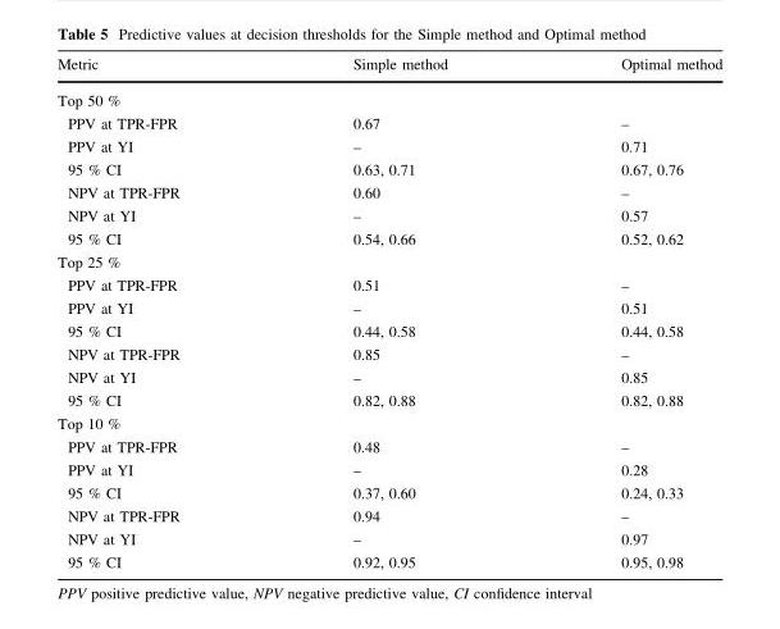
<table><thead><tr><td>Metric</td><td>Simple method</td><td>Optimal method</td></tr></thead><tbody><tr><td colspan="3">Top 50 %</td></tr><tr><td>PPV at TPR-FPR</td><td>0.67</td><td>–</td></tr><tr><td>PPV at YI</td><td>–</td><td>0.71</td></tr><tr><td>95 % CI</td><td>0.63, 0.71</td><td>0.67, 0.76</td></tr><tr><td>NPV at TPR-FPR</td><td>0.60</td><td>–</td></tr><tr><td>NPV at YI</td><td>–</td><td>0.57</td></tr><tr><td>95 % CI</td><td>0.54, 0.66</td><td>0.52, 0.62</td></tr><tr><td colspan="3">Top 25 %</td></tr><tr><td>PPV at TPR-FPR</td><td>0.51</td><td>–</td></tr><tr><td>PPV at YI</td><td>–</td><td>0.51</td></tr><tr><td>95 % CI</td><td>0.44, 0.58</td><td>0.44, 0.58</td></tr><tr><td>NPV at TPR-FPR</td><td>0.85</td><td>–</td></tr><tr><td>NPV at YI</td><td>–</td><td>0.85</td></tr><tr><td>95 % CI</td><td>0.82, 0.88</td><td>0.82, 0.88</td></tr><tr><td colspan="3">Top 10 %</td></tr><tr><td>PPV at TPR-FPR</td><td>0.48</td><td>–</td></tr><tr><td>PPV at YI</td><td>–</td><td>0.28</td></tr><tr><td>95 % CI</td><td>0.37, 0.60</td><td>0.24, 0.33</td></tr><tr><td>NPV at TPR-FPR</td><td>0.94</td><td>–</td></tr><tr><td>NPV at YI</td><td>–</td><td>0.97</td></tr><tr><td>95 % CI</td><td>0.92, 0.95</td><td>0.95, 0.98</td></tr></tbody></table>